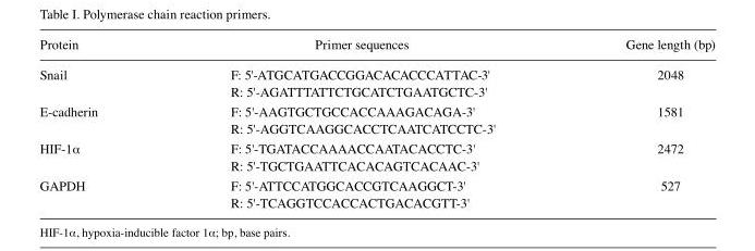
<table><thead><tr><td>Protein</td><td>Primer sequences</td><td>Gene length (bp)</td></tr></thead><tbody><tr><td rowspan="2">Snail</td><td>F: 5&#x27;-ATGCATGACCGGACACACCCATTAC-3&#x27;</td><td>2048</td></tr><tr><td>R: 5&#x27;-AGATTTATTCTGCATCTGAATGCTC-3&#x27;</td><td></td></tr><tr><td rowspan="2">E-cadherin</td><td>F: 5&#x27;-AAGTGCTGCCACCAAAGACAGA-3&#x27;</td><td>1581</td></tr><tr><td>R: 5&#x27;-AGGTCAAGGCACCTCAATCATCCTC-3&#x27;</td><td></td></tr><tr><td rowspan="2">HIF-1α</td><td>F: 5&#x27;-TGATACCAAAACCAATACACCTC-3&#x27;</td><td>2472</td></tr><tr><td>R: 5&#x27;-TGCTGAATTCACACAGTCACAAC-3&#x27;</td><td></td></tr><tr><td rowspan="2">GAPDH</td><td>F: 5&#x27;-ATTCCATGGCACCGTCAAGGCT-3&#x27;</td><td>527</td></tr><tr><td>R: 5&#x27;-TCAGGTCCACCACTGACACGTT-3&#x27;</td><td></td></tr></tbody></table>